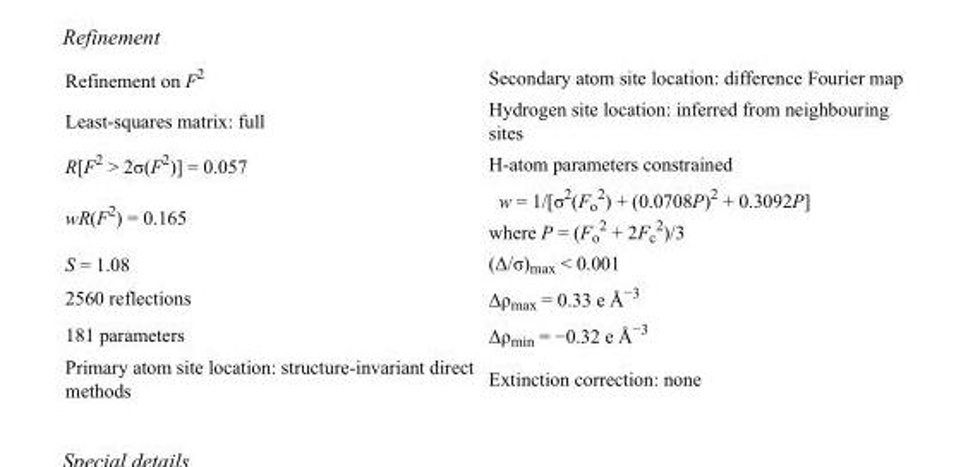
<table><tbody><tr><td>Refinement on F<sup>2</sup></td><td>Secondary atom site location: difference Fourier map</td></tr><tr><td>Least-squares matrix: full</td><td>Hydrogen site location: inferred from neighbouring sites</td></tr><tr><td>R[F<sup>2</sup> &gt; 2σ(F<sup>2</sup>)] = 0.057</td><td>H-atom parameters constrained</td></tr><tr><td>wR(F<sup>2</sup>) = 0.165</td><td>w = 1/[σ<sup>2</sup>(F<sub>o</sub> <sup>2</sup>) + (0.0708P)<sup>2</sup> + 0.3092P] where P = (F<sub>o</sub> <sup>2</sup> + 2F<sub>c</sub> <sup>2</sup>)/3</td></tr><tr><td>S = 1.08</td><td>(Δ/σ)<sub>max</sub> &lt; 0.001</td></tr><tr><td>2560 reflections</td><td>Δρ<sub>max</sub> = 0.33 e Å<sup>−3</sup></td></tr><tr><td>181 parameters</td><td>Δρ<sub>min</sub> = −0.32 e Å<sup>−3</sup></td></tr><tr><td>Primary atom site location: structure-invariant direct methods</td><td>Extinction correction: none</td></tr></tbody></table>